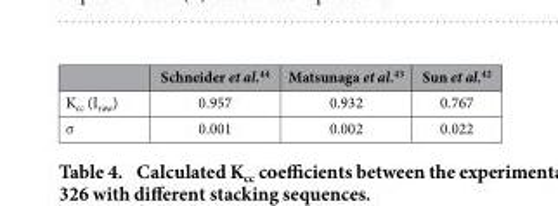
<table><thead><tr><td></td><td>Schneider et al.<sup>44</sup></td><td>Matsunaga et al.<sup>43</sup></td><td>Sun et al.<sup>42</sup></td></tr></thead><tbody><tr><td>K<sub>cc</sub> (I<sub>raw</sub>)</td><td>0.957</td><td>0.932</td><td>0.767</td></tr><tr><td>σ</td><td>0.001</td><td>0.002</td><td>0.022</td></tr></tbody></table>